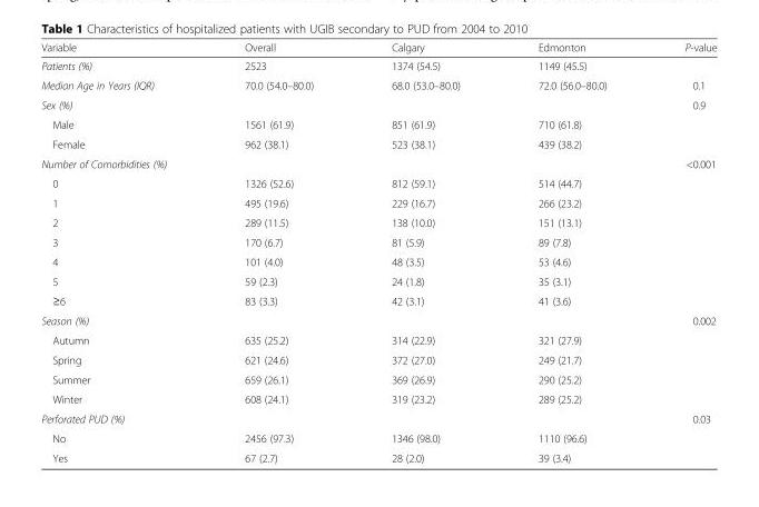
<table><thead><tr><td>Variable</td><td>Overall</td><td>Calgary</td><td>Edmonton</td><td>P-value</td></tr></thead><tbody><tr><td>Patients (%)</td><td>2523</td><td>1374 (54.5)</td><td>1149 (45.5)</td><td></td></tr><tr><td>Median Age in Years (IQR)</td><td>70.0 (54.0–80.0)</td><td>68.0 (53.0–80.0)</td><td>72.0 (56.0–80.0)</td><td>0.1</td></tr><tr><td>Sex (%)</td><td></td><td></td><td></td><td>0.9</td></tr><tr><td>Male</td><td>1561 (61.9)</td><td>851 (61.9)</td><td>710 (61.8)</td><td></td></tr><tr><td>Female</td><td>962 (38.1)</td><td>523 (38.1)</td><td>439 (38.2)</td><td></td></tr><tr><td>Number of Comorbidities (%)</td><td></td><td></td><td></td><td>&lt;0.001</td></tr><tr><td>0</td><td>1326 (52.6)</td><td>812 (59.1)</td><td>514 (44.7)</td><td></td></tr><tr><td>1</td><td>495 (19.6)</td><td>229 (16.7)</td><td>266 (23.2)</td><td></td></tr><tr><td>2</td><td>289 (11.5)</td><td>138 (10.0)</td><td>151 (13.1)</td><td></td></tr><tr><td>3</td><td>170 (6.7)</td><td>81 (5.9)</td><td>89 (7.8)</td><td></td></tr><tr><td>4</td><td>101 (4.0)</td><td>48 (3.5)</td><td>53 (4.6)</td><td></td></tr><tr><td>5</td><td>59 (2.3)</td><td>24 (1.8)</td><td>35 (3.1)</td><td></td></tr><tr><td>≥6</td><td>83 (3.3)</td><td>42 (3.1)</td><td>41 (3.6)</td><td></td></tr><tr><td>Season (%)</td><td></td><td></td><td></td><td>0.002</td></tr><tr><td>Autumn</td><td>635 (25.2)</td><td>314 (22.9)</td><td>321 (27.9)</td><td></td></tr><tr><td>Spring</td><td>621 (24.6)</td><td>372 (27.0)</td><td>249 (21.7)</td><td></td></tr><tr><td>Summer</td><td>659 (26.1)</td><td>369 (26.9)</td><td>290 (25.2)</td><td></td></tr><tr><td>Winter</td><td>608 (24.1)</td><td>319 (23.2)</td><td>289 (25.2)</td><td></td></tr><tr><td>Perforated PUD (%)</td><td></td><td></td><td></td><td>0.03</td></tr><tr><td>No</td><td>2456 (97.3)</td><td>1346 (98.0)</td><td>1110 (96.6)</td><td></td></tr><tr><td>Yes</td><td>67 (2.7)</td><td>28 (2.0)</td><td>39 (3.4)</td><td></td></tr></tbody></table>